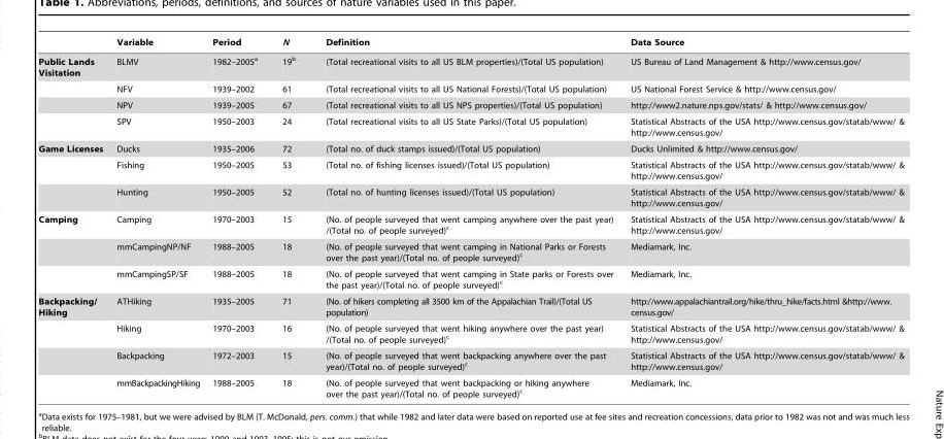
<table><thead><tr><td></td><td>Variable</td><td>Period</td><td>N</td><td>Definition</td><td>Data Source</td></tr></thead><tbody><tr><td rowspan="4">Public Lands Visitation</td><td>BLMV</td><td>1982–2005<sup>a</sup></td><td>19<sup>b</sup></td><td>(Total recreational visits to all US BLM properties)/(Total US population)</td><td>US Bureau of Land Management &amp; http://www.census.gov/</td></tr><tr><td>NFV</td><td>1939–2002</td><td>61</td><td>(Total recreational visits to all US National Forests)/(Total US population)</td><td>US National Forest Service &amp; http://www.census.gov/</td></tr><tr><td>NPV</td><td>1939–2005</td><td>67</td><td>(Total recreational visits to all US NPS properties)/(Total US population)</td><td>http://www2.nature.nps.gov/stats/ &amp; http://www.census.gov/</td></tr><tr><td>SPV</td><td>1950–2003</td><td>24</td><td>(Total recreational visits to all US State Parks)/(Total US population)</td><td>Statistical Abstracts of the USA http://www.census.gov/statab/www/ &amp; http://www.census.gov/</td></tr><tr><td rowspan="3">Game Licenses</td><td>Ducks</td><td>1935–2006</td><td>72</td><td>(Total no. of duck stamps issued)/(Total US population)</td><td>Ducks Unlimited &amp; http://www.census.gov/</td></tr><tr><td>Fishing</td><td>1950–2005</td><td>53</td><td>(Total no. of fishing licenses issued)/(Total US population)</td><td>Statistical Abstracts of the USA http://www.census.gov/statab/www/ &amp; http://www.census.gov/</td></tr><tr><td>Hunting</td><td>1950–2005</td><td>52</td><td>(Total no. of hunting licenses issued)/(Total US population)</td><td>Statistical Abstracts of the USA http://www.census.gov/statab/www/ &amp; http://www.census.gov/</td></tr><tr><td rowspan="3">Camping</td><td>Camping</td><td>1970–2003</td><td>15</td><td>(No. of people surveyed that went camping anywhere over the past year) /(Total no. of people surveyed)<sup>c</sup></td><td>Statistical Abstracts of the USA http://www.census.gov/statab/www/ &amp; http://www.census.gov/</td></tr><tr><td>mmCampingNP/NF</td><td>1988–2005</td><td>18</td><td>(No. of people surveyed that went camping in National Parks or Forests over the past year)/(Total no. of people surveyed)<sup>c</sup></td><td>Mediamark, Inc.</td></tr><tr><td>mmCampingSP/SF</td><td>1988–2005</td><td>18</td><td>(No. of people surveyed that went camping in State parks or Forests over the past year)/(Total no. of people surveyed)<sup>c</sup></td><td>Mediamark, Inc.</td></tr><tr><td rowspan="4">Backpacking/ Hiking</td><td>ATHiking</td><td>1935–2005</td><td>71</td><td>(No. of hikers completing all 3500 km of the Appalachian Trail)/(Total US population)</td><td>http://www.appalachiantrail.org/hike/thru_hike/facts.html &amp;http://www. census.gov/</td></tr><tr><td>Hiking</td><td>1970–2003</td><td>16</td><td>(No. of people surveyed that went hiking anywhere over the past year) /(Total no. of people surveyed)<sup>c</sup></td><td>Statistical Abstracts of the USA http://www.census.gov/statab/www/ &amp; http://www.census.gov/</td></tr><tr><td>Backpacking</td><td>1972–2003</td><td>15</td><td>(No. of people surveyed that went backpacking anywhere over the past year)/(Total no. of people surveyed)<sup>c</sup></td><td>Statistical Abstracts of the USA http://www.census.gov/statab/www/ &amp; http://www.census.gov/</td></tr><tr><td>mmBackpackingHiking</td><td>1988–2005</td><td>18</td><td>(No. of people surveyed that went backpacking or hiking anywhere over the past year)/(Total no. of people surveyed)<sup>c</sup></td><td>Mediamark, Inc.</td></tr></tbody></table>